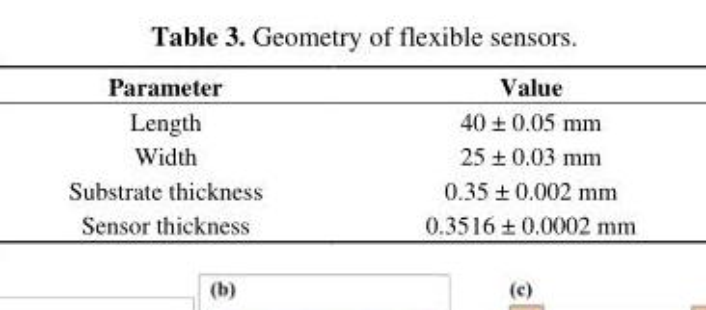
<table><thead><tr><td>Parameter</td><td>Value</td></tr></thead><tbody><tr><td>Length</td><td>40 ± 0.05 mm</td></tr><tr><td>Width</td><td>25 ± 0.03 mm</td></tr><tr><td>Substrate thickness</td><td>0.35 ± 0.002 mm</td></tr><tr><td>Sensor thickness</td><td>0.3516 ± 0.0002 mm</td></tr></tbody></table>